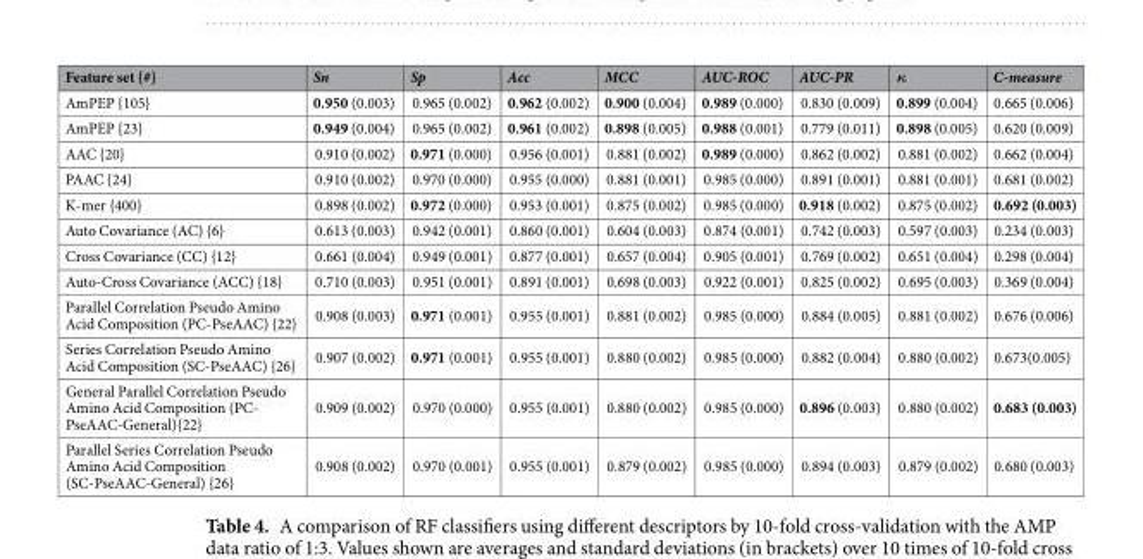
<table><thead><tr><td>Feature set {#}</td><td>Sn</td><td>Sp</td><td>Acc</td><td>MCC</td><td>AUC-ROC</td><td>AUC-PR</td><td>κ</td><td>C-measure</td></tr></thead><tbody><tr><td>AmPEP {105}</td><td>0.950 (0.003)</td><td>0.965 (0.002)</td><td>0.962 (0.002)</td><td>0.900 (0.004)</td><td>0.989 (0.000)</td><td>0.830 (0.009)</td><td>0.899 (0.004)</td><td>0.665 (0.006)</td></tr><tr><td>AmPEP {23}</td><td>0.949 (0.004)</td><td>0.965 (0.002)</td><td>0.961 (0.002)</td><td>0.898 (0.005)</td><td>0.988 (0.001)</td><td>0.779 (0.011)</td><td>0.898 (0.005)</td><td>0.620 (0.009)</td></tr><tr><td>AAC {20}</td><td>0.910 (0.002)</td><td>0.971 (0.000)</td><td>0.956 (0.001)</td><td>0.881 (0.002)</td><td>0.989 (0.000)</td><td>0.862 (0.002)</td><td>0.881 (0.002)</td><td>0.662 (0.004)</td></tr><tr><td>PAAC {24}</td><td>0.910 (0.002)</td><td>0.970 (0.000)</td><td>0.955 (0.000)</td><td>0.881 (0.001)</td><td>0.985 (0.000)</td><td>0.891 (0.001)</td><td>0.881 (0.001)</td><td>0.681 (0.002)</td></tr><tr><td>K-mer {400}</td><td>0.898 (0.002)</td><td>0.972 (0.000)</td><td>0.953 (0.001)</td><td>0.875 (0.002)</td><td>0.985 (0.000)</td><td>0.918 (0.002)</td><td>0.875 (0.002)</td><td>0.692 (0.003)</td></tr><tr><td>Auto Covariance (AC) {6}</td><td>0.613 (0.003)</td><td>0.942 (0.001)</td><td>0.860 (0.001)</td><td>0.604 (0.003)</td><td>0.874 (0.001)</td><td>0.742 (0.003)</td><td>0.597 (0.003)</td><td>0.234 (0.003)</td></tr><tr><td>Cross Covariance (CC) {12}</td><td>0.661 (0.004)</td><td>0.949 (0.001)</td><td>0.877 (0.001)</td><td>0.657 (0.004)</td><td>0.905 (0.001)</td><td>0.769 (0.002)</td><td>0.651 (0.004)</td><td>0.298 (0.004)</td></tr><tr><td>Auto-Cross Covariance (ACC) {18}</td><td>0.710 (0.003)</td><td>0.951 (0.001)</td><td>0.891 (0.001)</td><td>0.698 (0.003)</td><td>0.922 (0.001)</td><td>0.825 (0.002)</td><td>0.695 (0.003)</td><td>0.369 (0.004)</td></tr><tr><td>Parallel Correlation Pseudo Amino Acid Composition (PC-PseAAC) {22}</td><td>0.908 (0.003)</td><td>0.971 (0.001)</td><td>0.955 (0.001)</td><td>0.881 (0.002)</td><td>0.985 (0.000)</td><td>0.884 (0.005)</td><td>0.881 (0.002)</td><td>0.676 (0.006)</td></tr><tr><td>Series Correlation Pseudo Amino Acid Composition (SC-PseAAC) {26}</td><td>0.907 (0.002)</td><td>0.971 (0.001)</td><td>0.955 (0.001)</td><td>0.880 (0.002)</td><td>0.985 (0.000)</td><td>0.882 (0.004)</td><td>0.880 (0.002)</td><td>0.673(0.005)</td></tr><tr><td>General Parallel Correlation Pseudo Amino Acid Composition (PC- PseAAC-General){22}</td><td>0.909 (0.002)</td><td>0.970 (0.000)</td><td>0.955 (0.001)</td><td>0.880 (0.002)</td><td>0.985 (0.000)</td><td>0.896 (0.003)</td><td>0.880 (0.002)</td><td>0.683 (0.003)</td></tr><tr><td>Parallel Series Correlation Pseudo Amino Acid Composition (SC-PseAAC-General) {26}</td><td>0.908 (0.002)</td><td>0.970 (0.001)</td><td>0.955 (0.001)</td><td>0.879 (0.002)</td><td>0.985 (0.000)</td><td>0.894 (0.003)</td><td>0.879 (0.002)</td><td>0.680 (0.003)</td></tr></tbody></table>